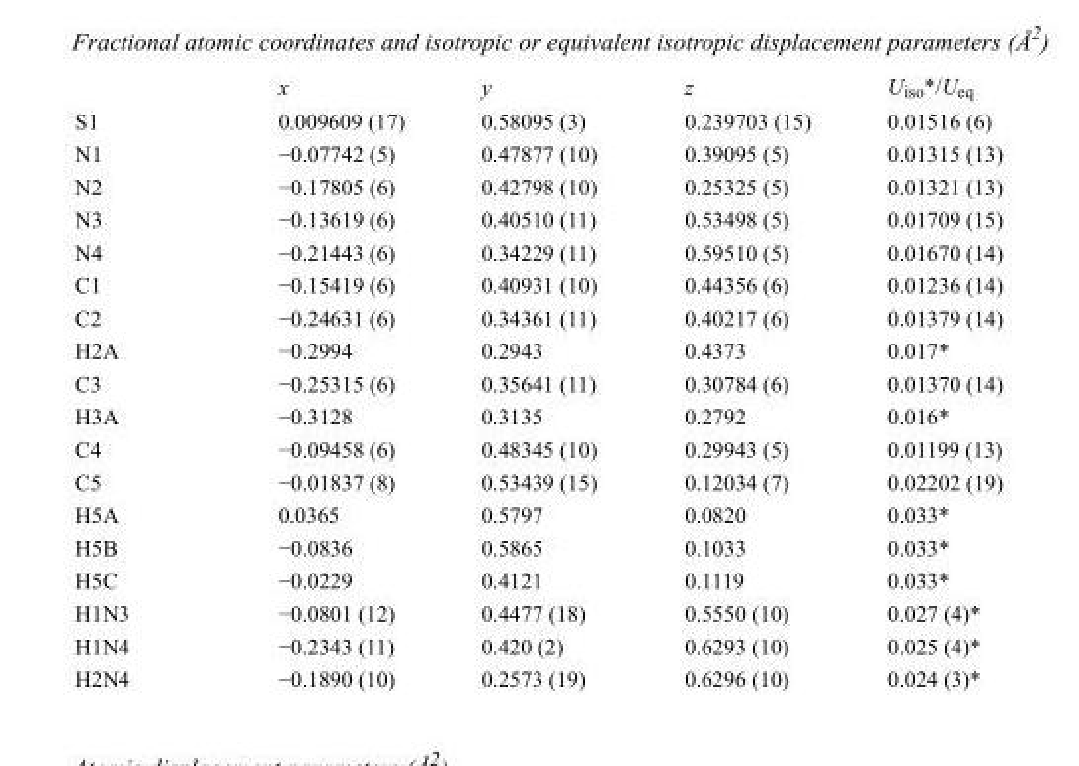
<table><thead><tr><td></td><td>x</td><td>y</td><td>z</td><td>U<sub>iso</sub>*/U<sub>eq</sub></td></tr></thead><tbody><tr><td>S1</td><td>0.009609 (17)</td><td>0.58095 (3)</td><td>0.239703 (15)</td><td>0.01516 (6)</td></tr><tr><td>N1</td><td>−0.07742 (5)</td><td>0.47877 (10)</td><td>0.39095 (5)</td><td>0.01315 (13)</td></tr><tr><td>N2</td><td>−0.17805 (6)</td><td>0.42798 (10)</td><td>0.25325 (5)</td><td>0.01321 (13)</td></tr><tr><td>N3</td><td>−0.13619 (6)</td><td>0.40510 (11)</td><td>0.53498 (5)</td><td>0.01709 (15)</td></tr><tr><td>N4</td><td>−0.21443 (6)</td><td>0.34229 (11)</td><td>0.59510 (5)</td><td>0.01670 (14)</td></tr><tr><td>C1</td><td>−0.15419 (6)</td><td>0.40931 (10)</td><td>0.44356 (6)</td><td>0.01236 (14)</td></tr><tr><td>C2</td><td>−0.24631 (6)</td><td>0.34361 (11)</td><td>0.40217 (6)</td><td>0.01379 (14)</td></tr><tr><td>H2A</td><td>−0.2994</td><td>0.2943</td><td>0.4373</td><td>0.017*</td></tr><tr><td>C3</td><td>−0.25315 (6)</td><td>0.35641 (11)</td><td>0.30784 (6)</td><td>0.01370 (14)</td></tr><tr><td>H3A</td><td>−0.3128</td><td>0.3135</td><td>0.2792</td><td>0.016*</td></tr><tr><td>C4</td><td>−0.09458 (6)</td><td>0.48345 (10)</td><td>0.29943 (5)</td><td>0.01199 (13)</td></tr><tr><td>C5</td><td>−0.01837 (8)</td><td>0.53439 (15)</td><td>0.12034 (7)</td><td>0.02202 (19)</td></tr><tr><td>H5A</td><td>0.0365</td><td>0.5797</td><td>0.0820</td><td>0.033*</td></tr><tr><td>H5B</td><td>−0.0836</td><td>0.5865</td><td>0.1033</td><td>0.033*</td></tr><tr><td>H5C</td><td>−0.0229</td><td>0.4121</td><td>0.1119</td><td>0.033*</td></tr><tr><td>H1N3</td><td>−0.0801 (12)</td><td>0.4477 (18)</td><td>0.5550 (10)</td><td>0.027 (4)*</td></tr><tr><td>H1N4</td><td>−0.2343 (11)</td><td>0.420 (2)</td><td>0.6293 (10)</td><td>0.025 (4)*</td></tr><tr><td>H2N4</td><td>−0.1890 (10)</td><td>0.2573 (19)</td><td>0.6296 (10)</td><td>0.024 (3)*</td></tr></tbody></table>